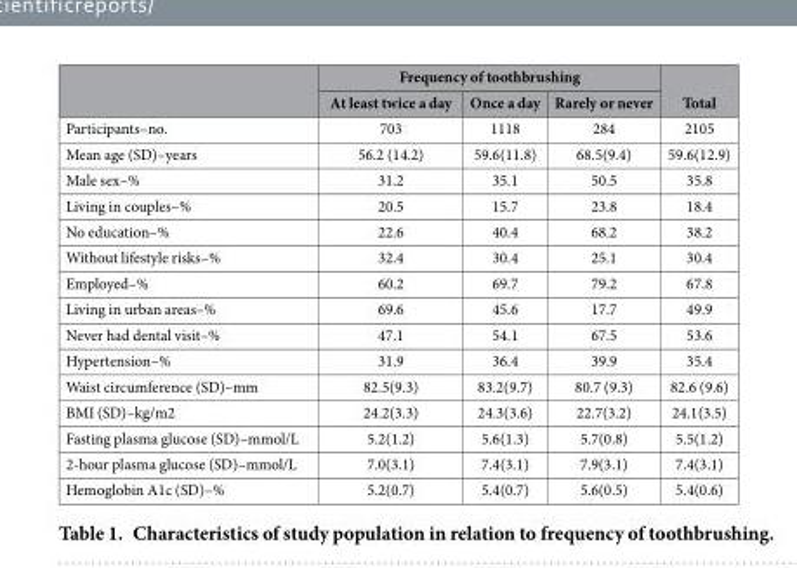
<table><thead><tr><td rowspan="2"></td><td colspan="3">Frequency of toothbrushing</td><td rowspan="2">Total</td></tr><tr><td>At least twice a day</td><td>Once a day</td><td>Rarely or never</td></tr></thead><tbody><tr><td>Participants–no.</td><td>703</td><td>1118</td><td>284</td><td>2105</td></tr><tr><td>Mean age (SD)–years</td><td>56.2 (14.2)</td><td>59.6(11.8)</td><td>68.5(9.4)</td><td>59.6(12.9)</td></tr><tr><td>Male sex–%</td><td>31.2</td><td>35.1</td><td>50.5</td><td>35.8</td></tr><tr><td>Living in couples–%</td><td>20.5</td><td>15.7</td><td>23.8</td><td>18.4</td></tr><tr><td>No education–%</td><td>22.6</td><td>40.4</td><td>68.2</td><td>38.2</td></tr><tr><td>Without lifestyle risks–%</td><td>32.4</td><td>30.4</td><td>25.1</td><td>30.4</td></tr><tr><td>Employed–%</td><td>60.2</td><td>69.7</td><td>79.2</td><td>67.8</td></tr><tr><td>Living in urban areas–%</td><td>69.6</td><td>45.6</td><td>17.7</td><td>49.9</td></tr><tr><td>Never had dental visit–%</td><td>47.1</td><td>54.1</td><td>67.5</td><td>53.6</td></tr><tr><td>Hypertension–%</td><td>31.9</td><td>36.4</td><td>39.9</td><td>35.4</td></tr><tr><td>Waist circumference (SD)–mm</td><td>82.5(9.3)</td><td>83.2(9.7)</td><td>80.7 (9.3)</td><td>82.6 (9.6)</td></tr><tr><td>BMI (SD)–kg/m2</td><td>24.2(3.3)</td><td>24.3(3.6)</td><td>22.7(3.2)</td><td>24.1(3.5)</td></tr><tr><td>Fasting plasma glucose (SD)–mmol/L</td><td>5.2(1.2)</td><td>5.6(1.3)</td><td>5.7(0.8)</td><td>5.5(1.2)</td></tr><tr><td>2-hour plasma glucose (SD)–mmol/L</td><td>7.0(3.1)</td><td>7.4(3.1)</td><td>7.9(3.1)</td><td>7.4(3.1)</td></tr><tr><td>Hemoglobin A1c (SD)–%</td><td>5.2(0.7)</td><td>5.4(0.7)</td><td>5.6(0.5)</td><td>5.4(0.6)</td></tr></tbody></table>